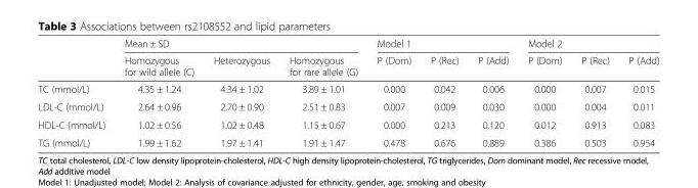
<table><thead><tr><td rowspan="2"></td><td colspan="3">Mean ± SD</td><td colspan="3">Model 1</td><td colspan="3">Model 2</td></tr><tr><td>Homozygous for wild allele (C)</td><td>Heterozygous</td><td>Homozygous for rare allele (G)</td><td>P (Dom)</td><td>P (Rec)</td><td>P (Add)</td><td>P (Dom)</td><td>P (Rec)</td><td>P (Add)</td></tr></thead><tbody><tr><td>TC (mmol/L)</td><td>4.35 ± 1.24</td><td>4.34 ± 1.02</td><td>3.89 ± 1.01</td><td>0.000</td><td>0.042</td><td>0.006</td><td>0.000</td><td>0.007</td><td>0.015</td></tr><tr><td>LDL-C (mmol/L)</td><td>2.64 ± 0.96</td><td>2.70 ± 0.90</td><td>2.51 ± 0.83</td><td>0.007</td><td>0.009</td><td>0.030</td><td>0.000</td><td>0.004</td><td>0.011</td></tr><tr><td>HDL-C (mmol/L)</td><td>1.02 ± 0.56</td><td>1.02 ± 0.48</td><td>1.15 ± 0.67</td><td>0.000</td><td>0.213</td><td>0.120</td><td>0.012</td><td>0.913</td><td>0.083</td></tr><tr><td>TG (mmol/L)</td><td>1.99 ± 1.62</td><td>1.97 ± 1.41</td><td>1.91 ± 1.47</td><td>0.478</td><td>0.676</td><td>0.889</td><td>0.386</td><td>0.503</td><td>0.954</td></tr></tbody></table>